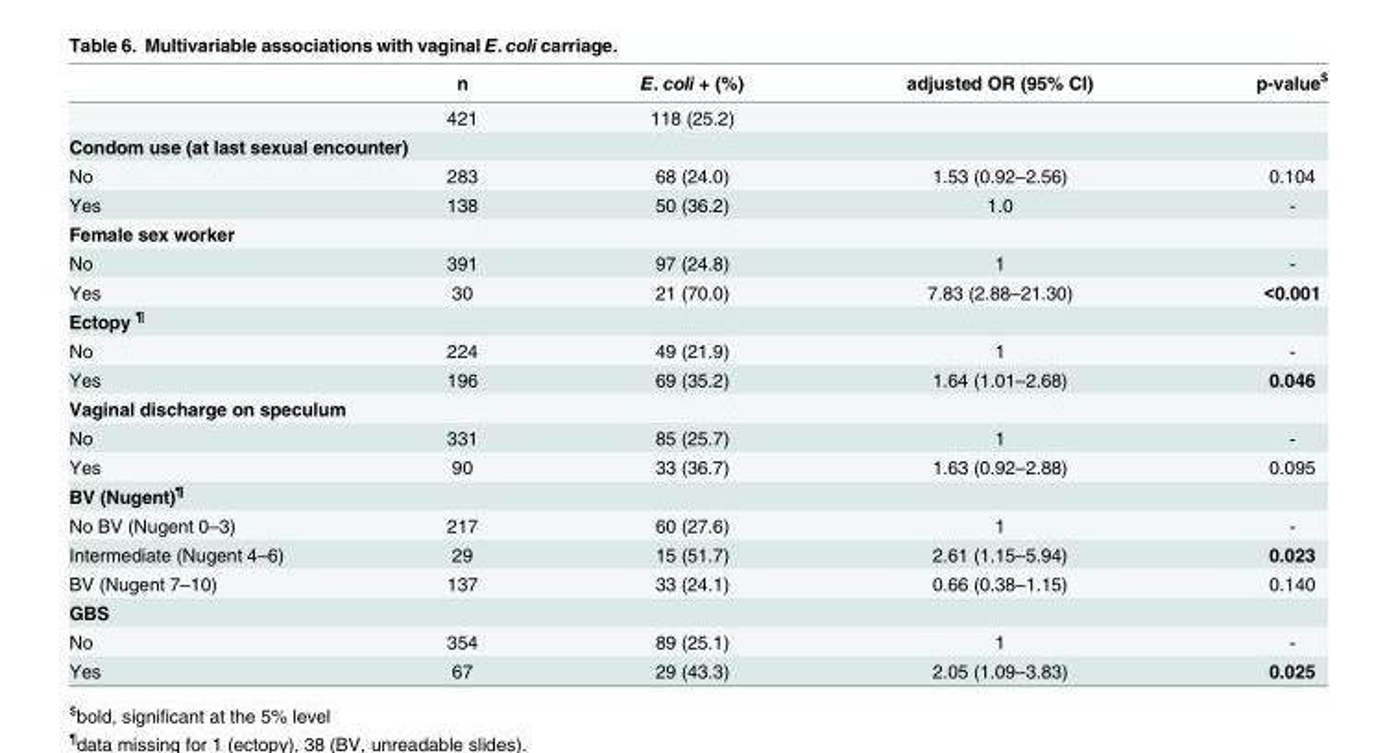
<table><thead><tr><td></td><td>n</td><td>E. coli + (%)</td><td>adjusted OR (95% CI)</td><td>p-value<sup>$</sup></td></tr></thead><tbody><tr><td></td><td>421</td><td>118 (25.2)</td><td></td><td></td></tr><tr><td colspan="5">Condom use (at last sexual encounter)</td></tr><tr><td>No</td><td>283</td><td>68 (24.0)</td><td>1.53 (0.92–2.56)</td><td>0.104</td></tr><tr><td>Yes</td><td>138</td><td>50 (36.2)</td><td>1.0</td><td>-</td></tr><tr><td colspan="5">Female sex worker</td></tr><tr><td>No</td><td>391</td><td>97 (24.8)</td><td>1</td><td>-</td></tr><tr><td>Yes</td><td>30</td><td>21 (70.0)</td><td>7.83 (2.88–21.30)</td><td>&lt;0.001</td></tr><tr><td colspan="5">Ectopy <sup>¶</sup></td></tr><tr><td>No</td><td>224</td><td>49 (21.9)</td><td>1</td><td>-</td></tr><tr><td>Yes</td><td>196</td><td>69 (35.2)</td><td>1.64 (1.01–2.68)</td><td>0.046</td></tr><tr><td colspan="5">Vaginal discharge on speculum</td></tr><tr><td>No</td><td>331</td><td>85 (25.7)</td><td>1</td><td>-</td></tr><tr><td>Yes</td><td>90</td><td>33 (36.7)</td><td>1.63 (0.92–2.88)</td><td>0.095</td></tr><tr><td colspan="5">BV (Nugent)<sup>¶</sup></td></tr><tr><td>No BV (Nugent 0–3)</td><td>217</td><td>60 (27.6)</td><td>1</td><td>-</td></tr><tr><td>Intermediate (Nugent 4–6)</td><td>29</td><td>15 (51.7)</td><td>2.61 (1.15–5.94)</td><td>0.023</td></tr><tr><td>BV (Nugent 7–10)</td><td>137</td><td>33 (24.1)</td><td>0.66 (0.38–1.15)</td><td>0.140</td></tr><tr><td colspan="5">GBS</td></tr><tr><td>No</td><td>354</td><td>89 (25.1)</td><td>1</td><td>-</td></tr><tr><td>Yes</td><td>67</td><td>29 (43.3)</td><td>2.05 (1.09–3.83)</td><td>0.025</td></tr></tbody></table>